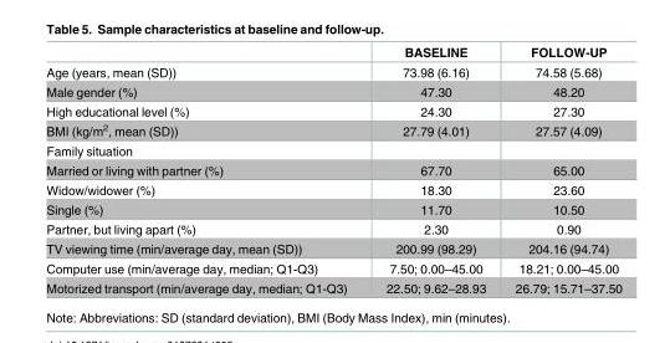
<table><thead><tr><td></td><td>BASELINE</td><td>FOLLOW-UP</td></tr></thead><tbody><tr><td>Age (years, mean (SD))</td><td>73.98 (6.16)</td><td>74.58 (5.68)</td></tr><tr><td>Male gender (%)</td><td>47.30</td><td>48.20</td></tr><tr><td>High educational level (%)</td><td>24.30</td><td>27.30</td></tr><tr><td>BMI (kg/m<sup>2</sup>, mean (SD))</td><td>27.79 (4.01)</td><td>27.57 (4.09)</td></tr><tr><td colspan="3">Family situation</td></tr><tr><td>Married or living with partner (%)</td><td>67.70</td><td>65.00</td></tr><tr><td>Widow/widower (%)</td><td>18.30</td><td>23.60</td></tr><tr><td>Single (%)</td><td>11.70</td><td>10.50</td></tr><tr><td>Partner, but living apart (%)</td><td>2.30</td><td>0.90</td></tr><tr><td>TV viewing time (min/average day, mean (SD))</td><td>200.99 (98.29)</td><td>204.16 (94.74)</td></tr><tr><td>Computer use (min/average day, median; Q1-Q3)</td><td>7.50; 0.00–45.00</td><td>18.21; 0.00–45.00</td></tr><tr><td>Motorized transport (min/average day, median; Q1-Q3)</td><td>22.50; 9.62–28.93</td><td>26.79; 15.71–37.50</td></tr></tbody></table>